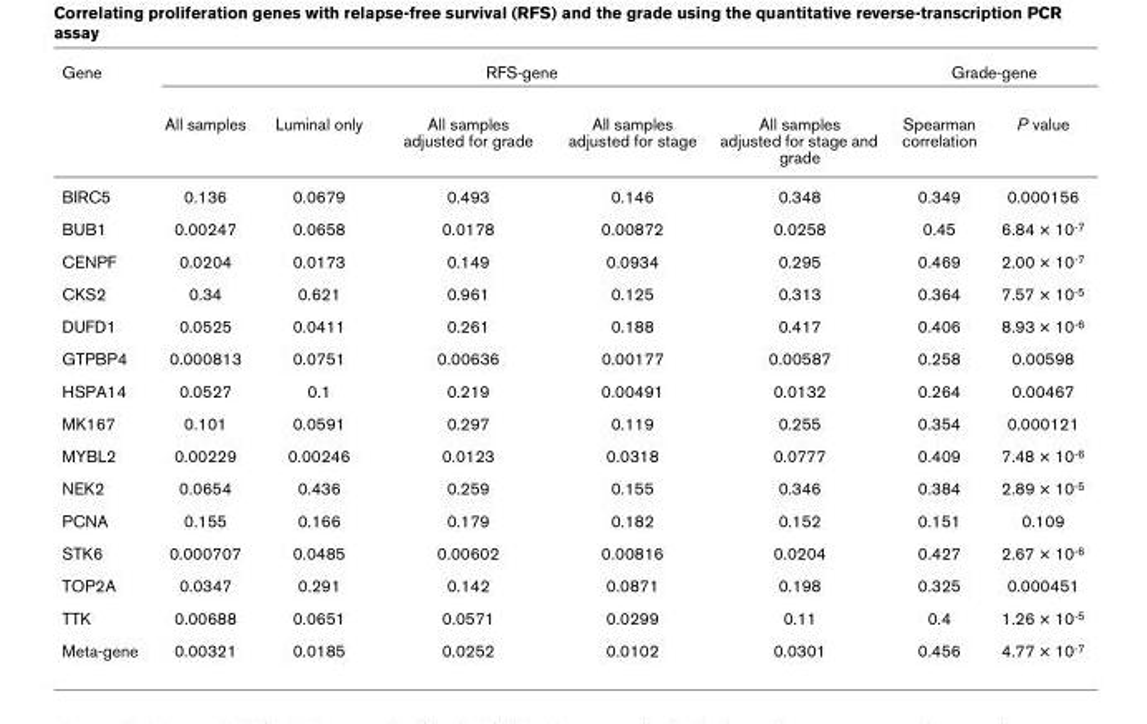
<table><thead><tr><td rowspan="2">Gene</td><td colspan="5">RFS-gene</td><td colspan="2">Grade-gene</td></tr><tr><td>All samples</td><td>Luminal only</td><td>All samples adjusted for grade</td><td>All samples adjusted for stage</td><td>All samples adjusted for stage and grade</td><td>Spearman correlation</td><td>P value</td></tr></thead><tbody><tr><td>BIRC5</td><td>0.136</td><td>0.0679</td><td>0.493</td><td>0.146</td><td>0.348</td><td>0.349</td><td>0.000156</td></tr><tr><td>BUB1</td><td>0.00247</td><td>0.0658</td><td>0.0178</td><td>0.00872</td><td>0.0258</td><td>0.45</td><td>6.84 × 10-7</td></tr><tr><td>CENPF</td><td>0.0204</td><td>0.0173</td><td>0.149</td><td>0.0934</td><td>0.295</td><td>0.469</td><td>2.00 × 10-7</td></tr><tr><td>CKS2</td><td>0.34</td><td>0.621</td><td>0.961</td><td>0.125</td><td>0.313</td><td>0.364</td><td>7.57 × 10-5</td></tr><tr><td>DUFD1</td><td>0.0525</td><td>0.0411</td><td>0.261</td><td>0.188</td><td>0.417</td><td>0.406</td><td>8.93 × 10-6</td></tr><tr><td>GTPBP4</td><td>0.000813</td><td>0.0751</td><td>0.00636</td><td>0.00177</td><td>0.00587</td><td>0.258</td><td>0.00598</td></tr><tr><td>HSPA14</td><td>0.0527</td><td>0.1</td><td>0.219</td><td>0.00491</td><td>0.0132</td><td>0.264</td><td>0.00467</td></tr><tr><td>MK167</td><td>0.101</td><td>0.0591</td><td>0.297</td><td>0.119</td><td>0.255</td><td>0.354</td><td>0.000121</td></tr><tr><td>MYBL2</td><td>0.00229</td><td>0.00246</td><td>0.0123</td><td>0.0318</td><td>0.0777</td><td>0.409</td><td>7.48 × 10-6</td></tr><tr><td>NEK2</td><td>0.0654</td><td>0.436</td><td>0.259</td><td>0.155</td><td>0.346</td><td>0.384</td><td>2.89 × 10-5</td></tr><tr><td>PCNA</td><td>0.155</td><td>0.166</td><td>0.179</td><td>0.182</td><td>0.152</td><td>0.151</td><td>0.109</td></tr><tr><td>STK6</td><td>0.000707</td><td>0.0485</td><td>0.00602</td><td>0.00816</td><td>0.0204</td><td>0.427</td><td>2.67 × 10-6</td></tr><tr><td>TOP2A</td><td>0.0347</td><td>0.291</td><td>0.142</td><td>0.0871</td><td>0.198</td><td>0.325</td><td>0.000451</td></tr><tr><td>TTK</td><td>0.00688</td><td>0.0651</td><td>0.0571</td><td>0.0299</td><td>0.11</td><td>0.4</td><td>1.26 × 10-5</td></tr><tr><td>Meta-gene</td><td>0.00321</td><td>0.0185</td><td>0.0252</td><td>0.0102</td><td>0.0301</td><td>0.456</td><td>4.77 × 10-7</td></tr></tbody></table>